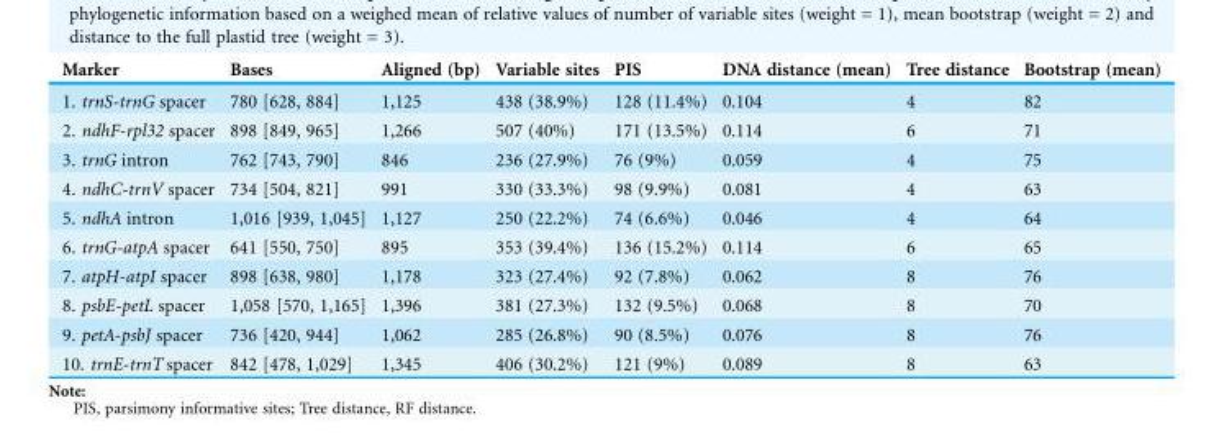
<table><thead><tr><td>Marker</td><td>Bases</td><td>Aligned (bp)</td><td>Variable sites</td><td>PIS</td><td>DNA distance (mean)</td><td>Tree distance</td><td>Bootstrap (mean)</td></tr></thead><tbody><tr><td>1. trnS-trnG spacer</td><td>780 [628, 884]</td><td>1,125</td><td>438 (38.9%)</td><td>128 (11.4%)</td><td>0.104</td><td>4</td><td>82</td></tr><tr><td>2. ndhF-rpl32 spacer</td><td>898 [849, 965]</td><td>1,266</td><td>507 (40%)</td><td>171 (13.5%)</td><td>0.114</td><td>6</td><td>71</td></tr><tr><td>3. trnG intron</td><td>762 [743, 790]</td><td>846</td><td>236 (27.9%)</td><td>76 (9%)</td><td>0.059</td><td>4</td><td>75</td></tr><tr><td>4. ndhC-trnV spacer</td><td>734 [504, 821]</td><td>991</td><td>330 (33.3%)</td><td>98 (9.9%)</td><td>0.081</td><td>4</td><td>63</td></tr><tr><td>5. ndhA intron</td><td>1,016 [939, 1,045]</td><td>1,127</td><td>250 (22.2%)</td><td>74 (6.6%)</td><td>0.046</td><td>4</td><td>64</td></tr><tr><td>6. trnG-atpA spacer</td><td>641 [550, 750]</td><td>895</td><td>353 (39.4%)</td><td>136 (15.2%)</td><td>0.114</td><td>6</td><td>65</td></tr><tr><td>7. atpH-atpI spacer</td><td>898 [638, 980]</td><td>1,178</td><td>323 (27.4%)</td><td>92 (7.8%)</td><td>0.062</td><td>8</td><td>76</td></tr><tr><td>8. psbE-petL spacer</td><td>1,058 [570, 1,165]</td><td>1,396</td><td>381 (27.3%)</td><td>132 (9.5%)</td><td>0.068</td><td>8</td><td>70</td></tr><tr><td>9. petA-psbJ spacer</td><td>736 [420, 944]</td><td>1,062</td><td>285 (26.8%)</td><td>90 (8.5%)</td><td>0.076</td><td>8</td><td>76</td></tr><tr><td>10. trnE-trnT spacer</td><td>842 [478, 1,029]</td><td>1,345</td><td>406 (30.2%)</td><td>121 (9%)</td><td>0.089</td><td>8</td><td>63</td></tr></tbody></table>